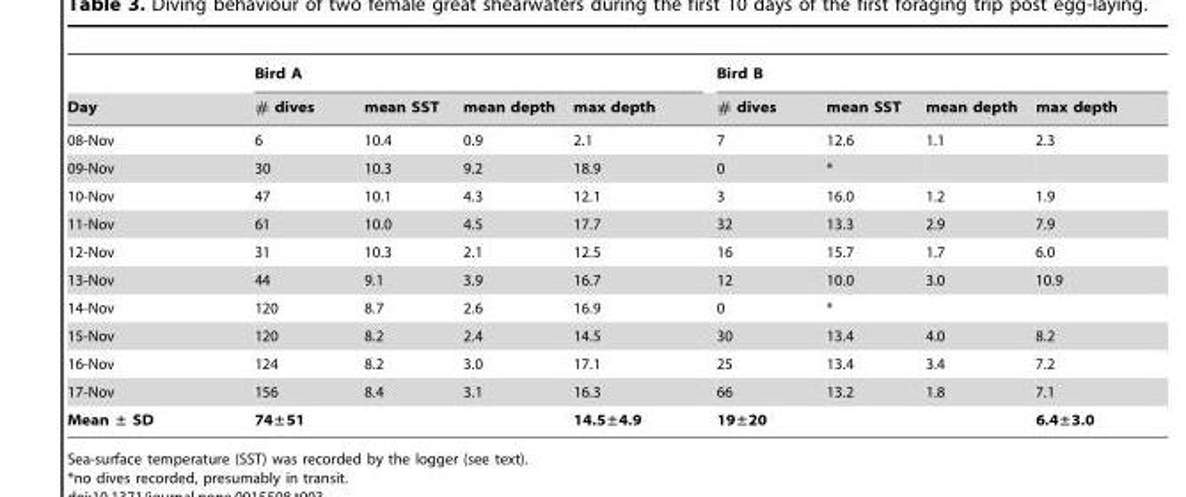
<table><thead><tr><td rowspan="2">Day</td><td colspan="4">Bird A</td><td colspan="4">Bird B</td></tr><tr><td># dives</td><td>mean SST</td><td>mean depth</td><td>max depth</td><td># dives</td><td>mean SST</td><td>mean depth</td><td>max depth</td></tr></thead><tbody><tr><td>08-Nov</td><td>6</td><td>10.4</td><td>0.9</td><td>2.1</td><td>7</td><td>12.6</td><td>1.1</td><td>2.3</td></tr><tr><td>09-Nov</td><td>30</td><td>10.3</td><td>9.2</td><td>18.9</td><td>0</td><td>*</td><td></td><td></td></tr><tr><td>10-Nov</td><td>47</td><td>10.1</td><td>4.3</td><td>12.1</td><td>3</td><td>16.0</td><td>1.2</td><td>1.9</td></tr><tr><td>11-Nov</td><td>61</td><td>10.0</td><td>4.5</td><td>17.7</td><td>32</td><td>13.3</td><td>2.9</td><td>7.9</td></tr><tr><td>12-Nov</td><td>31</td><td>10.3</td><td>2.1</td><td>12.5</td><td>16</td><td>15.7</td><td>1.7</td><td>6.0</td></tr><tr><td>13-Nov</td><td>44</td><td>9.1</td><td>3.9</td><td>16.7</td><td>12</td><td>10.0</td><td>3.0</td><td>10.9</td></tr><tr><td>14-Nov</td><td>120</td><td>8.7</td><td>2.6</td><td>16.9</td><td>0</td><td>*</td><td></td><td></td></tr><tr><td>15-Nov</td><td>120</td><td>8.2</td><td>2.4</td><td>14.5</td><td>30</td><td>13.4</td><td>4.0</td><td>8.2</td></tr><tr><td>16-Nov</td><td>124</td><td>8.2</td><td>3.0</td><td>17.1</td><td>25</td><td>13.4</td><td>3.4</td><td>7.2</td></tr><tr><td>17-Nov</td><td>156</td><td>8.4</td><td>3.1</td><td>16.3</td><td>66</td><td>13.2</td><td>1.8</td><td>7.1</td></tr><tr><td>Mean ± SD</td><td>74±51</td><td></td><td></td><td>14.5±4.9</td><td>19±20</td><td></td><td></td><td>6.4±3.0</td></tr></tbody></table>